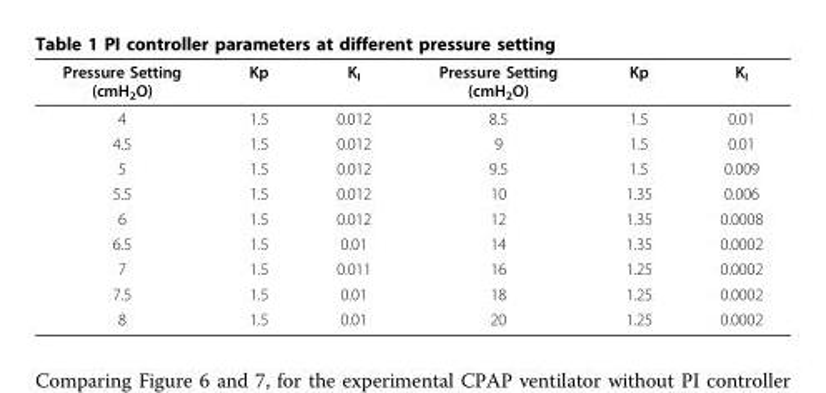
<table><thead><tr><td>Pressure Setting (cmH<sub>2</sub>O)</td><td>Kp</td><td>K<sub>I</sub></td><td>Pressure Setting (cmH<sub>2</sub>O)</td><td>Kp</td><td>K<sub>I</sub></td></tr></thead><tbody><tr><td>4</td><td>1.5</td><td>0.012</td><td>8.5</td><td>1.5</td><td>0.01</td></tr><tr><td>4.5</td><td>1.5</td><td>0.012</td><td>9</td><td>1.5</td><td>0.01</td></tr><tr><td>5</td><td>1.5</td><td>0.012</td><td>9.5</td><td>1.5</td><td>0.009</td></tr><tr><td>5.5</td><td>1.5</td><td>0.012</td><td>10</td><td>1.35</td><td>0.006</td></tr><tr><td>6</td><td>1.5</td><td>0.012</td><td>12</td><td>1.35</td><td>0.0008</td></tr><tr><td>6.5</td><td>1.5</td><td>0.01</td><td>14</td><td>1.35</td><td>0.0002</td></tr><tr><td>7</td><td>1.5</td><td>0.011</td><td>16</td><td>1.25</td><td>0.0002</td></tr><tr><td>7.5</td><td>1.5</td><td>0.01</td><td>18</td><td>1.25</td><td>0.0002</td></tr><tr><td>8</td><td>1.5</td><td>0.01</td><td>20</td><td>1.25</td><td>0.0002</td></tr></tbody></table>